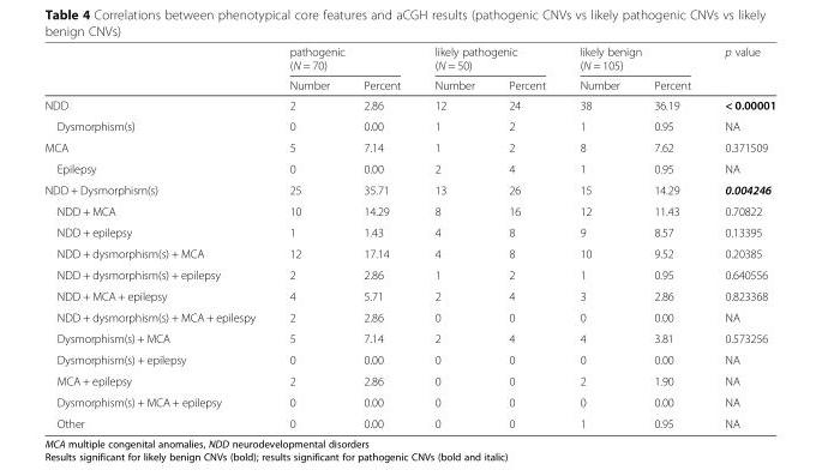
<table><thead><tr><td rowspan="2"></td><td colspan="2">pathogenic (N = 70)</td><td colspan="2">likely pathogenic (N = 50)</td><td colspan="2">likely benign (N = 105)</td><td rowspan="2">p value</td></tr><tr><td>Number</td><td>Percent</td><td>Number</td><td>Percent</td><td>Number</td><td>Percent</td></tr></thead><tbody><tr><td>NDD</td><td>2</td><td>2.86</td><td>12</td><td>24</td><td>38</td><td>36.19</td><td>&lt; 0.00001</td></tr><tr><td>Dysmorphism(s)</td><td>0</td><td>0.00</td><td>1</td><td>2</td><td>1</td><td>0.95</td><td>NA</td></tr><tr><td>MCA</td><td>5</td><td>7.14</td><td>1</td><td>2</td><td>8</td><td>7.62</td><td>0.371509</td></tr><tr><td>Epilepsy</td><td>0</td><td>0.00</td><td>2</td><td>4</td><td>1</td><td>0.95</td><td>NA</td></tr><tr><td>NDD + Dysmorphism(s)</td><td>25</td><td>35.71</td><td>13</td><td>26</td><td>15</td><td>14.29</td><td>0.004246</td></tr><tr><td>NDD + MCA</td><td>10</td><td>14.29</td><td>8</td><td>16</td><td>12</td><td>11.43</td><td>0.70822</td></tr><tr><td>NDD + epilepsy</td><td>1</td><td>1.43</td><td>4</td><td>8</td><td>9</td><td>8.57</td><td>0.13395</td></tr><tr><td>NDD + dysmorphism(s) + MCA</td><td>12</td><td>17.14</td><td>4</td><td>8</td><td>10</td><td>9.52</td><td>0.20385</td></tr><tr><td>NDD + dysmorphism(s) + epilepsy</td><td>2</td><td>2.86</td><td>1</td><td>2</td><td>1</td><td>0.95</td><td>0.640556</td></tr><tr><td>NDD + MCA + epilepsy</td><td>4</td><td>5.71</td><td>2</td><td>4</td><td>3</td><td>2.86</td><td>0.823368</td></tr><tr><td>NDD + dysmorphism(s) + MCA + epilespy</td><td>2</td><td>2.86</td><td>0</td><td>0</td><td>0</td><td>0.00</td><td>NA</td></tr><tr><td>Dysmorphism(s) + MCA</td><td>5</td><td>7.14</td><td>2</td><td>4</td><td>4</td><td>3.81</td><td>0.573256</td></tr><tr><td>Dysmorphism(s) + epilepsy</td><td>0</td><td>0.00</td><td>0</td><td>0</td><td>0</td><td>0.00</td><td>NA</td></tr><tr><td>MCA + epilepsy</td><td>2</td><td>2.86</td><td>0</td><td>0</td><td>2</td><td>1.90</td><td>NA</td></tr><tr><td>Dysmorphism(s) + MCA + epilepsy</td><td>0</td><td>0.00</td><td>0</td><td>0</td><td>0</td><td>0.00</td><td>NA</td></tr><tr><td>Other</td><td>0</td><td>0.00</td><td>0</td><td>0</td><td>1</td><td>0.95</td><td>NA</td></tr></tbody></table>